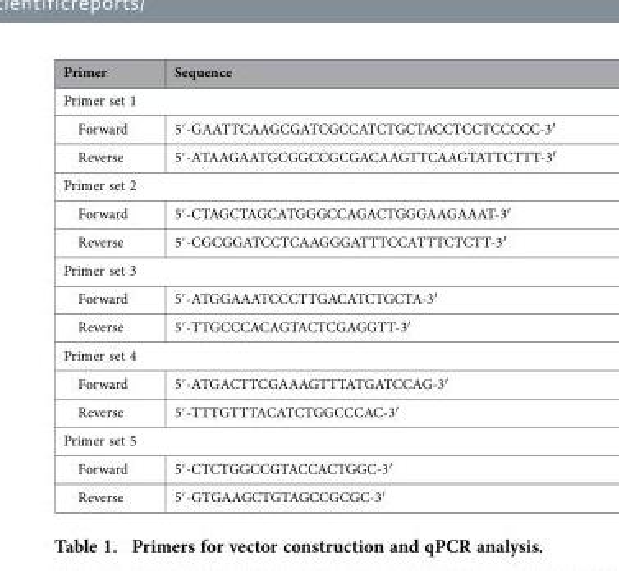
<table><thead><tr><td>Primer</td><td>Sequence</td></tr></thead><tbody><tr><td colspan="2">Primer set 1</td></tr><tr><td>Forward</td><td>5′ -GAATTCAAGCGATCGCCATCTGCTACCTCCTCCCCC-3′</td></tr><tr><td>Reverse</td><td>5′ -ATAAGAATGCGGCCGCGACAAGTTCAAGTATTCTTT-3′</td></tr><tr><td colspan="2">Primer set 2</td></tr><tr><td>Forward</td><td>5′ -CTAGCTAGCATGGGCCAGACTGGGAAGAAAT-3′</td></tr><tr><td>Reverse</td><td>5′ -CGCGGATCCTCAAGGGATTTCCATTTCTCTT-3′</td></tr><tr><td colspan="2">Primer set 3</td></tr><tr><td>Forward</td><td>5′ -ATGGAAATCCCTTGACATCTGCTA-3′</td></tr><tr><td>Reverse</td><td>5′ -TTGCCCACAGTACTCGAGGTT-3′</td></tr><tr><td colspan="2">Primer set 4</td></tr><tr><td>Forward</td><td>5′ -ATGACTTCGAAAGTTTATGATCCAG-3′</td></tr><tr><td>Reverse</td><td>5′ -TTTGTTTACATCTGGCCCAC-3′</td></tr><tr><td colspan="2">Primer set 5</td></tr><tr><td>Forward</td><td>5′ -CTCTGGCCGTACCACTGGC-3′</td></tr><tr><td>Reverse</td><td>5′ -GTGAAGCTGTAGCCGCGC-3′</td></tr></tbody></table>